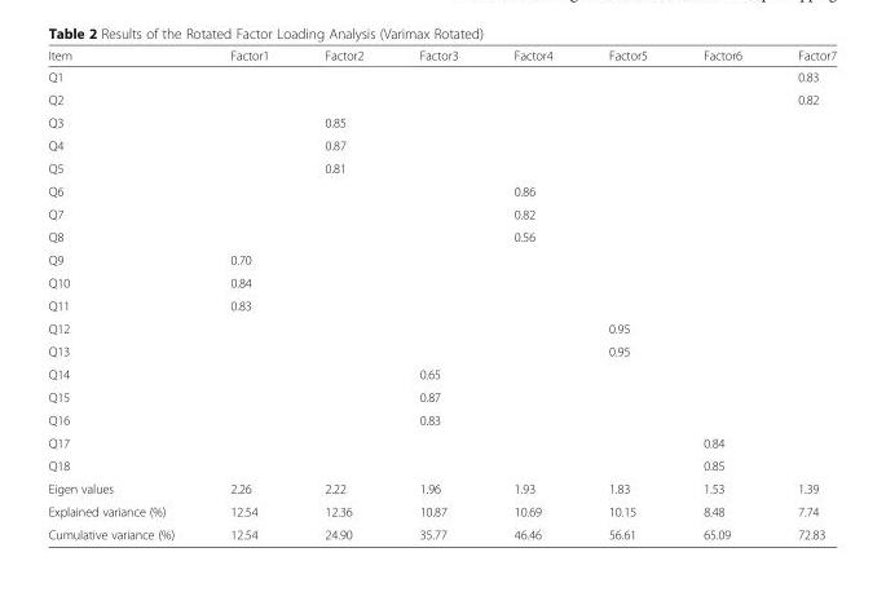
<table><thead><tr><td>Item</td><td>Factor1</td><td>Factor2</td><td>Factor3</td><td>Factor4</td><td>Factor5</td><td>Factor6</td><td>Factor7</td></tr></thead><tbody><tr><td>Q1</td><td></td><td></td><td></td><td></td><td></td><td></td><td>0.83</td></tr><tr><td>Q2</td><td></td><td></td><td></td><td></td><td></td><td></td><td>0.82</td></tr><tr><td>Q3</td><td></td><td>0.85</td><td></td><td></td><td></td><td></td><td></td></tr><tr><td>Q4</td><td></td><td>0.87</td><td></td><td></td><td></td><td></td><td></td></tr><tr><td>Q5</td><td></td><td>0.81</td><td></td><td></td><td></td><td></td><td></td></tr><tr><td>Q6</td><td></td><td></td><td></td><td>0.86</td><td></td><td></td><td></td></tr><tr><td>Q7</td><td></td><td></td><td></td><td>0.82</td><td></td><td></td><td></td></tr><tr><td>Q8</td><td></td><td></td><td></td><td>0.56</td><td></td><td></td><td></td></tr><tr><td>Q9</td><td>0.70</td><td></td><td></td><td></td><td></td><td></td><td></td></tr><tr><td>Q10</td><td>0.84</td><td></td><td></td><td></td><td></td><td></td><td></td></tr><tr><td>Q11</td><td>0.83</td><td></td><td></td><td></td><td></td><td></td><td></td></tr><tr><td>Q12</td><td></td><td></td><td></td><td></td><td>0.95</td><td></td><td></td></tr><tr><td>Q13</td><td></td><td></td><td></td><td></td><td>0.95</td><td></td><td></td></tr><tr><td>Q14</td><td></td><td></td><td>0.65</td><td></td><td></td><td></td><td></td></tr><tr><td>Q15</td><td></td><td></td><td>0.87</td><td></td><td></td><td></td><td></td></tr><tr><td>Q16</td><td></td><td></td><td>0.83</td><td></td><td></td><td></td><td></td></tr><tr><td>Q17</td><td></td><td></td><td></td><td></td><td></td><td>0.84</td><td></td></tr><tr><td>Q18</td><td></td><td></td><td></td><td></td><td></td><td>0.85</td><td></td></tr><tr><td>Eigen values</td><td>2.26</td><td>2.22</td><td>1.96</td><td>1.93</td><td>1.83</td><td>1.53</td><td>1.39</td></tr><tr><td>Explained variance (%)</td><td>12.54</td><td>12.36</td><td>10.87</td><td>10.69</td><td>10.15</td><td>8.48</td><td>7.74</td></tr><tr><td>Cumulative variance (%)</td><td>12.54</td><td>24.90</td><td>35.77</td><td>46.46</td><td>56.61</td><td>65.09</td><td>72.83</td></tr></tbody></table>